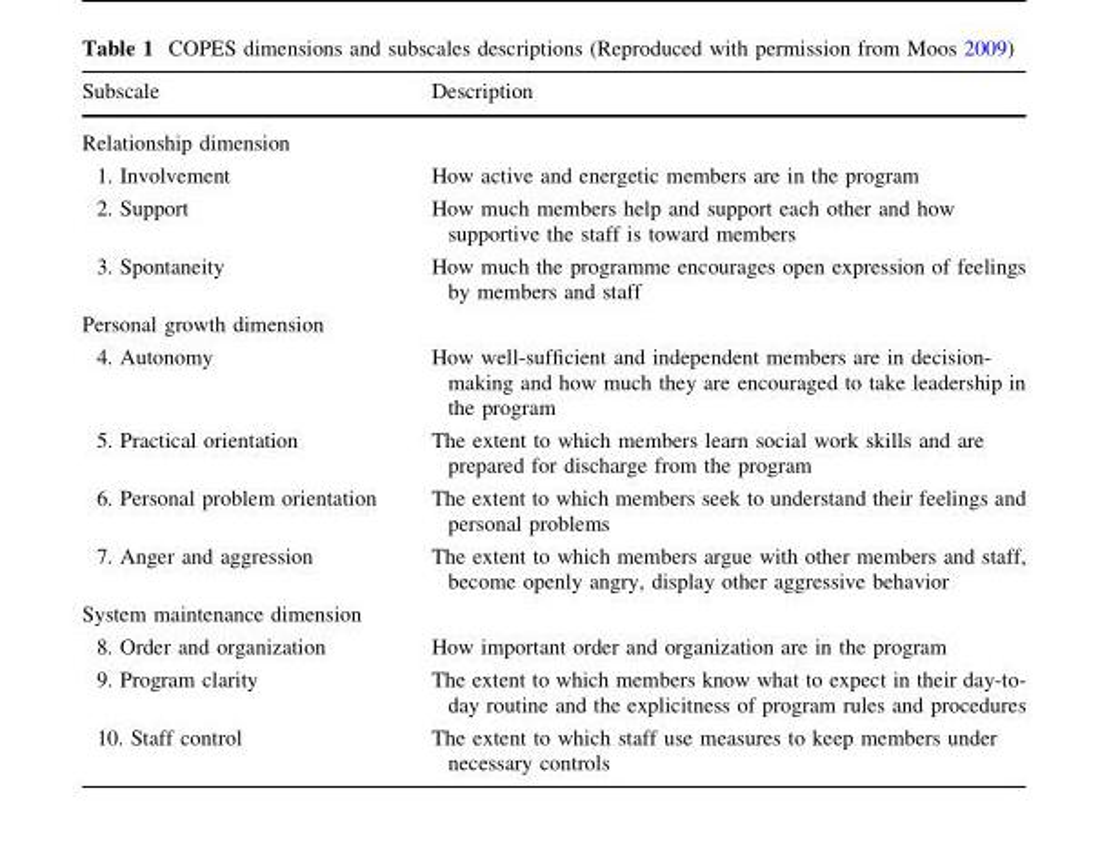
<table><thead><tr><td>Subscale</td><td>Description</td></tr></thead><tbody><tr><td colspan="2">Relationship dimension</td></tr><tr><td>1. Involvement</td><td>How active and energetic members are in the program</td></tr><tr><td>2. Support</td><td>How much members help and support each other and how supportive the staff is toward members</td></tr><tr><td>3. Spontaneity</td><td>How much the programme encourages open expression of feelings by members and staff</td></tr><tr><td colspan="2">Personal growth dimension</td></tr><tr><td>4. Autonomy</td><td>How well-sufficient and independent members are in decision- making and how much they are encouraged to take leadership in the program</td></tr><tr><td>5. Practical orientation</td><td>The extent to which members learn social work skills and are prepared for discharge from the program</td></tr><tr><td>6. Personal problem orientation</td><td>The extent to which members seek to understand their feelings and personal problems</td></tr><tr><td>7. Anger and aggression</td><td>The extent to which members argue with other members and staff, become openly angry, display other aggressive behavior</td></tr><tr><td colspan="2">System maintenance dimension</td></tr><tr><td>8. Order and organization</td><td>How important order and organization are in the program</td></tr><tr><td>9. Program clarity</td><td>The extent to which members know what to expect in their day-to- day routine and the explicitness of program rules and procedures</td></tr><tr><td>10. Staff control</td><td>The extent to which staff use measures to keep members under necessary controls</td></tr></tbody></table>